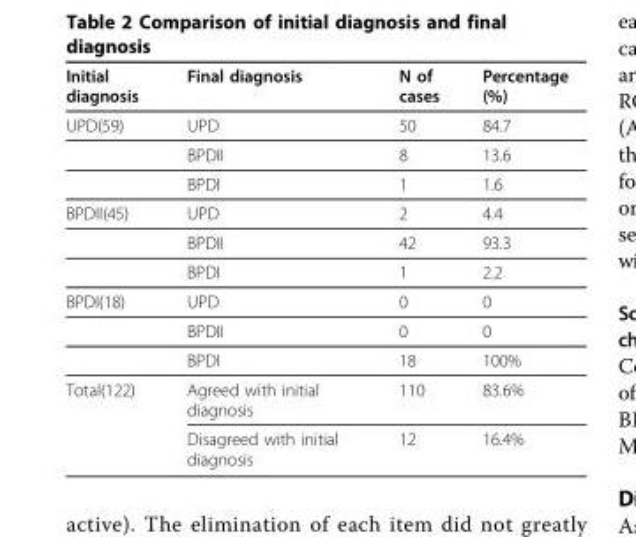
<table><thead><tr><td>Initial diagnosis</td><td>Final diagnosis</td><td>N of cases</td><td>Percentage (%)</td></tr></thead><tbody><tr><td rowspan="3">UPD(59)</td><td>UPD</td><td>50</td><td>84.7</td></tr><tr><td>BPDII</td><td>8</td><td>13.6</td></tr><tr><td>BPDI</td><td>1</td><td>1.6</td></tr><tr><td rowspan="3">BPDII(45)</td><td>UPD</td><td>2</td><td>4.4</td></tr><tr><td>BPDII</td><td>42</td><td>93.3</td></tr><tr><td>BPDI</td><td>1</td><td>2.2</td></tr><tr><td rowspan="3">BPDI(18)</td><td>UPD</td><td>0</td><td>0</td></tr><tr><td>BPDII</td><td>0</td><td>0</td></tr><tr><td>BPDI</td><td>18</td><td>100%</td></tr><tr><td rowspan="2">Total(122)</td><td>Agreed with initial diagnosis</td><td>110</td><td>83.6%</td></tr><tr><td>Disagreed with initial diagnosis</td><td>12</td><td>16.4%</td></tr></tbody></table>